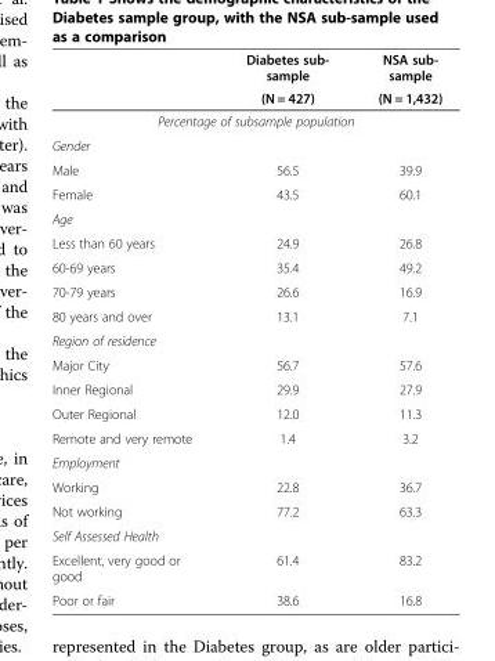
<table><thead><tr><td rowspan="2"></td><td rowspan="2">Diabetes sub- sample (N = 427)</td><td rowspan="2">NSA sub- sample (N = 1,432)</td></tr><tr></tr></thead><tbody><tr><td colspan="3">Percentage of subsample population</td></tr><tr><td colspan="3">Gender</td></tr><tr><td>Male</td><td>56.5</td><td>39.9</td></tr><tr><td>Female</td><td>43.5</td><td>60.1</td></tr><tr><td colspan="3">Age</td></tr><tr><td>Less than 60 years</td><td>24.9</td><td>26.8</td></tr><tr><td>60-69 years</td><td>35.4</td><td>49.2</td></tr><tr><td>70-79 years</td><td>26.6</td><td>16.9</td></tr><tr><td>80 years and over</td><td>13.1</td><td>7.1</td></tr><tr><td colspan="3">Region of residence</td></tr><tr><td>Major City</td><td>56.7</td><td>57.6</td></tr><tr><td>Inner Regional</td><td>29.9</td><td>27.9</td></tr><tr><td>Outer Regional</td><td>12.0</td><td>11.3</td></tr><tr><td>Remote and very remote</td><td>1.4</td><td>3.2</td></tr><tr><td colspan="3">Employment</td></tr><tr><td>Working</td><td>22.8</td><td>36.7</td></tr><tr><td>Not working</td><td>77.2</td><td>63.3</td></tr><tr><td colspan="3">Self Assessed Health</td></tr><tr><td>Excellent, very good or good</td><td>61.4</td><td>83.2</td></tr><tr><td>Poor or fair</td><td>38.6</td><td>16.8</td></tr></tbody></table>